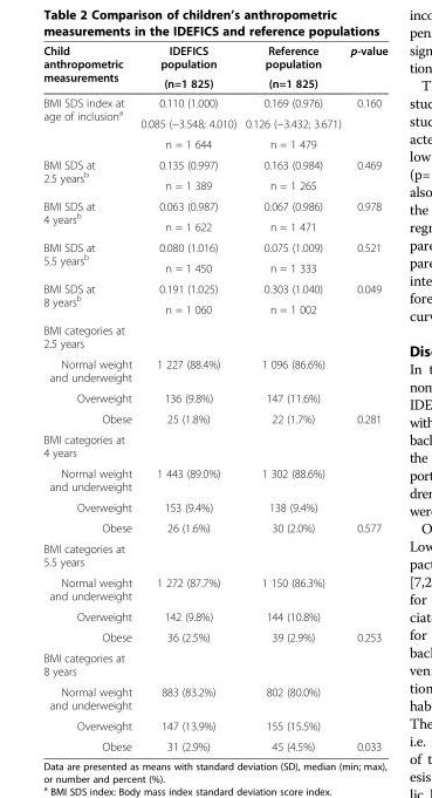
<table><thead><tr><td rowspan="2">Child anthropometric measurements</td><td rowspan="2">IDEFICS population (n=1 825)</td><td rowspan="2">Reference population (n=1 825)</td><td rowspan="2">p-value</td></tr><tr></tr></thead><tbody><tr><td rowspan="3">BMI SDS index at age of inclusion<sup>a</sup></td><td>0.110 (1.000)</td><td>0.169 (0.976)</td><td rowspan="3">0.160</td></tr><tr><td>0.085 (−3.548; 4.010)</td><td>0.126 (−3.432; 3.671)</td></tr><tr><td>n = 1 644</td><td>n = 1 479</td></tr><tr><td rowspan="2">BMI SDS at 2.5 years<sup>b</sup></td><td>0.135 (0.997)</td><td>0.163 (0.984)</td><td rowspan="2">0.469</td></tr><tr><td>n = 1 389</td><td>n = 1 265</td></tr><tr><td rowspan="2">BMI SDS at 4 years<sup>b</sup></td><td>0.063 (0.987)</td><td>0.067 (0.986)</td><td rowspan="2">0.978</td></tr><tr><td>n = 1 622</td><td>n = 1 471</td></tr><tr><td rowspan="2">BMI SDS at 5.5 years<sup>b</sup></td><td>0.080 (1.016)</td><td>0.075 (1.009)</td><td rowspan="2">0.521</td></tr><tr><td>n = 1 450</td><td>n = 1 333</td></tr><tr><td rowspan="2">BMI SDS at 8 years<sup>b</sup></td><td>0.191 (1.025)</td><td>0.303 (1.040)</td><td rowspan="2">0.049</td></tr><tr><td>n = 1 060</td><td>n = 1 002</td></tr><tr><td colspan="4">BMI categories at 2.5 years</td></tr><tr><td>Normal weight and underweight</td><td>1 227 (88.4%)</td><td>1 096 (86.6%)</td><td></td></tr><tr><td>Overweight</td><td>136 (9.8%)</td><td>147 (11.6%)</td><td></td></tr><tr><td>Obese</td><td>25 (1.8%)</td><td>22 (1.7%)</td><td>0.281</td></tr><tr><td colspan="4">BMI categories at 4 years</td></tr><tr><td>Normal weight and underweight</td><td>1 443 (89.0%)</td><td>1 302 (88.6%)</td><td></td></tr><tr><td>Overweight</td><td>153 (9.4%)</td><td>138 (9.4%)</td><td></td></tr><tr><td>Obese</td><td>26 (1.6%)</td><td>30 (2.0%)</td><td>0.577</td></tr><tr><td colspan="4">BMI categories at 5.5 years</td></tr><tr><td>Normal weight and underweight</td><td>1 272 (87.7%)</td><td>1 150 (86.3%)</td><td></td></tr><tr><td>Overweight</td><td>142 (9.8%)</td><td>144 (10.8%)</td><td></td></tr><tr><td>Obese</td><td>36 (2.5%)</td><td>39 (2.9%)</td><td>0.253</td></tr><tr><td colspan="4">BMI categories at 8 years</td></tr><tr><td>Normal weight and underweight</td><td>883 (83.2%)</td><td>802 (80.0%)</td><td></td></tr><tr><td>Overweight</td><td>147 (13.9%)</td><td>155 (15.5%)</td><td></td></tr><tr><td>Obese</td><td>31 (2.9%)</td><td>45 (4.5%)</td><td>0.033</td></tr></tbody></table>